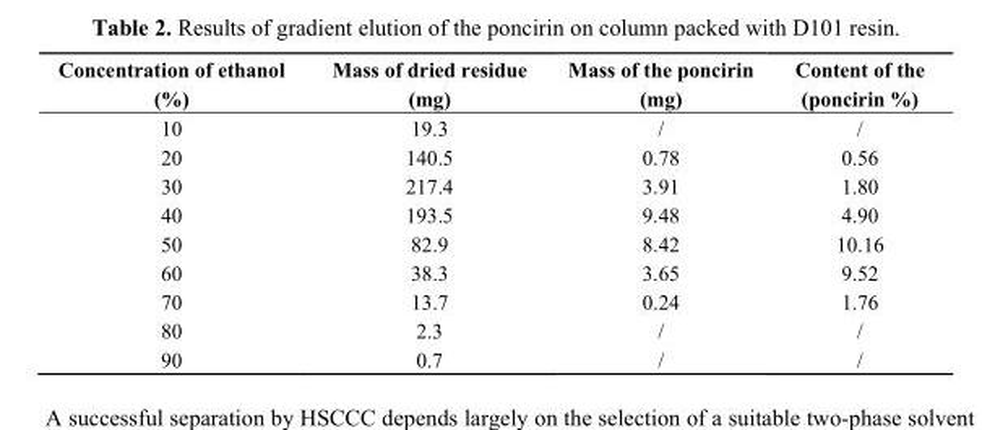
<table><thead><tr><td>Concentration of ethanol (%)</td><td>Mass of dried residue (mg)</td><td>Mass of the poncirin (mg)</td><td>Content of the (poncirin %)</td></tr></thead><tbody><tr><td>10</td><td>19.3</td><td>/</td><td>/</td></tr><tr><td>20</td><td>140.5</td><td>0.78</td><td>0.56</td></tr><tr><td>30</td><td>217.4</td><td>3.91</td><td>1.80</td></tr><tr><td>40</td><td>193.5</td><td>9.48</td><td>4.90</td></tr><tr><td>50</td><td>82.9</td><td>8.42</td><td>10.16</td></tr><tr><td>60</td><td>38.3</td><td>3.65</td><td>9.52</td></tr><tr><td>70</td><td>13.7</td><td>0.24</td><td>1.76</td></tr><tr><td>80</td><td>2.3</td><td>/</td><td>/</td></tr><tr><td>90</td><td>0.7</td><td>/</td><td>/</td></tr></tbody></table>